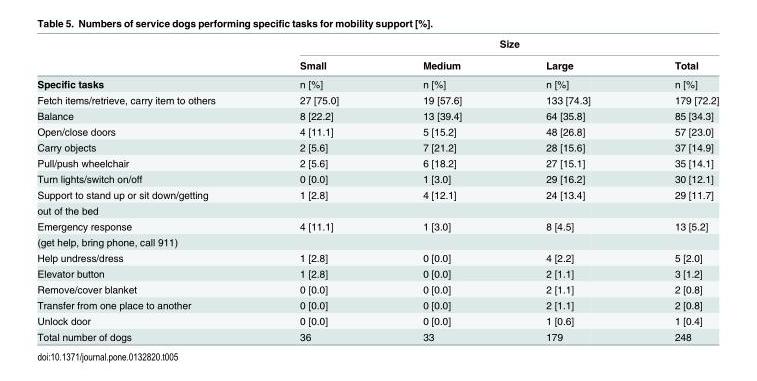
<table><thead><tr><td rowspan="2"></td><td colspan="4">Size</td></tr><tr><td>Small</td><td>Medium</td><td>Large</td><td>Total</td></tr></thead><tbody><tr><td>Specific tasks</td><td>n [%]</td><td>n [%]</td><td>n [%]</td><td>n [%]</td></tr><tr><td>Fetch items/retrieve, carry item to others</td><td>27 [75.0]</td><td>19 [57.6]</td><td>133 [74.3]</td><td>179 [72.2]</td></tr><tr><td>Balance</td><td>8 [22.2]</td><td>13 [39.4]</td><td>64 [35.8]</td><td>85 [34.3]</td></tr><tr><td>Open/close doors</td><td>4 [11.1]</td><td>5 [15.2]</td><td>48 [26.8]</td><td>57 [23.0]</td></tr><tr><td>Carry objects</td><td>2 [5.6]</td><td>7 [21.2]</td><td>28 [15.6]</td><td>37 [14.9]</td></tr><tr><td>Pull/push wheelchair</td><td>2 [5.6]</td><td>6 [18.2]</td><td>27 [15.1]</td><td>35 [14.1]</td></tr><tr><td>Turn lights/switch on/off</td><td>0 [0.0]</td><td>1 [3.0]</td><td>29 [16.2]</td><td>30 [12.1]</td></tr><tr><td>Support to stand up or sit down/getting</td><td>1 [2.8]</td><td>4 [12.1]</td><td>24 [13.4]</td><td>29 [11.7]</td></tr><tr><td colspan="5">out of the bed</td></tr><tr><td>Emergency response</td><td>4 [11.1]</td><td>1 [3.0]</td><td>8 [4.5]</td><td>13 [5.2]</td></tr><tr><td colspan="5">(get help, bring phone, call 911)</td></tr><tr><td>Help undress/dress</td><td>1 [2.8]</td><td>0 [0.0]</td><td>4 [2.2]</td><td>5 [2.0]</td></tr><tr><td>Elevator button</td><td>1 [2.8]</td><td>0 [0.0]</td><td>2 [1.1]</td><td>3 [1.2]</td></tr><tr><td>Remove/cover blanket</td><td>0 [0.0]</td><td>0 [0.0]</td><td>2 [1.1]</td><td>2 [0.8]</td></tr><tr><td>Transfer from one place to another</td><td>0 [0.0]</td><td>0 [0.0]</td><td>2 [1.1]</td><td>2 [0.8]</td></tr><tr><td>Unlock door</td><td>0 [0.0]</td><td>0 [0.0]</td><td>1 [0.6]</td><td>1 [0.4]</td></tr><tr><td>Total number of dogs</td><td>36</td><td>33</td><td>179</td><td>248</td></tr></tbody></table>